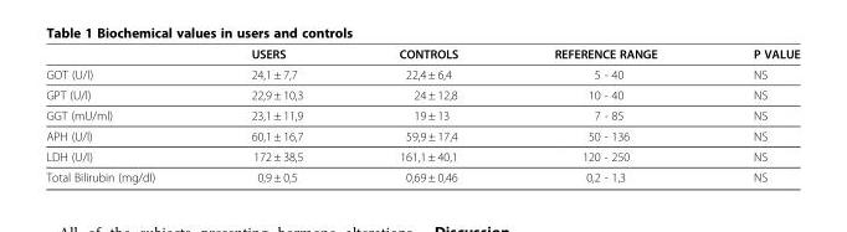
<table><thead><tr><td></td><td>USERS</td><td>CONTROLS</td><td>REFERENCE RANGE</td><td>P VALUE</td></tr></thead><tbody><tr><td>GOT (U/l)</td><td>24,1 ± 7,7</td><td>22,4 ± 6,4</td><td>5 - 40</td><td>NS</td></tr><tr><td>GPT (U/l)</td><td>22,9 ± 10,3</td><td>24 ± 12,8</td><td>10 - 40</td><td>NS</td></tr><tr><td>GGT (mU/ml)</td><td>23,1 ± 11,9</td><td>19 ± 13</td><td>7 - 85</td><td>NS</td></tr><tr><td>APH (U/l)</td><td>60,1 ± 16,7</td><td>59,9 ± 17,4</td><td>50 - 136</td><td>NS</td></tr><tr><td>LDH (U/l)</td><td>172 ± 38,5</td><td>161,1 ± 40,1</td><td>120 - 250</td><td>NS</td></tr><tr><td>Total Bilirubin (mg/dl)</td><td>0,9 ± 0,5</td><td>0,69 ± 0,46</td><td>0,2 - 1,3</td><td>NS</td></tr></tbody></table>